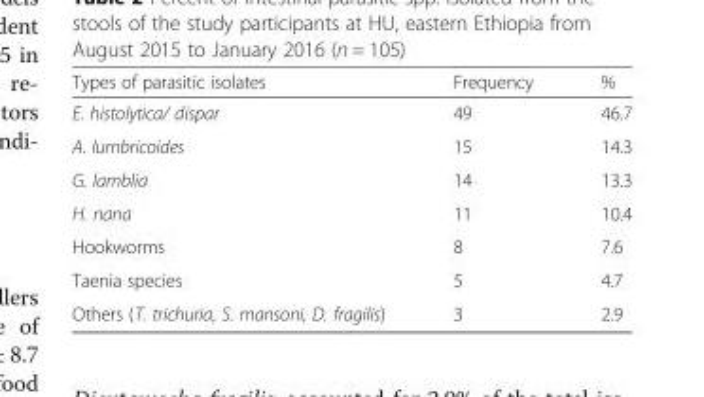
<table><thead><tr><td>Types of parasitic isolates</td><td>Frequency</td><td>%</td></tr></thead><tbody><tr><td>E. histolytica/ dispar</td><td>49</td><td>46.7</td></tr><tr><td>A. lumbricoides</td><td>15</td><td>14.3</td></tr><tr><td>G. lamblia</td><td>14</td><td>13.3</td></tr><tr><td>H. nana</td><td>11</td><td>10.4</td></tr><tr><td>Hookworms</td><td>8</td><td>7.6</td></tr><tr><td>Taenia species</td><td>5</td><td>4.7</td></tr><tr><td>Others (T. trichuria, S. mansoni, D. fragilis)</td><td>3</td><td>2.9</td></tr></tbody></table>